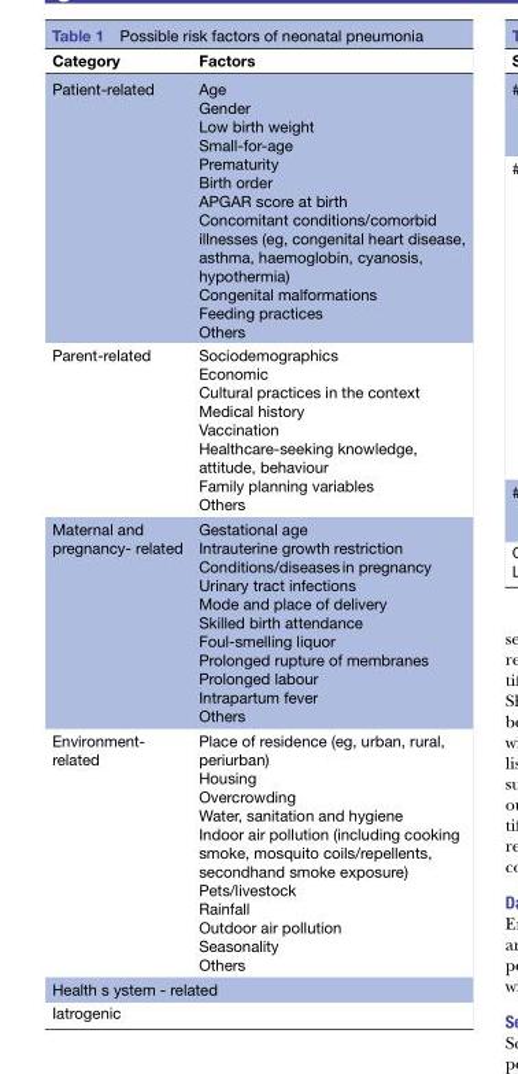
<table><thead><tr><td>Category</td><td>Factors</td></tr></thead><tbody><tr><td>Patient-related</td><td>Age Gender Low birth weight Small-for-age Prematurity Birth order APGAR score at birth Concomitant conditions/comorbid illnesses (eg, congenital heart disease, asthma, haemoglobin, cyanosis, hypothermia) Congenital malformations Feeding practices Others</td></tr><tr><td>Parent-related</td><td>Sociodemographics Economic Cultural practices in the context Medical history Vaccination Healthcare-seeking knowledge, attitude, behaviour Family planning variables Others</td></tr><tr><td>Maternal and pregnancy- related</td><td>Gestational age Intrauterine growth restriction Conditions/diseases in pregnancy Urinary tract infections Mode and place of delivery Skilled birth attendance Foul-smelling liquor Prolonged rupture of membranes Prolonged labour Intrapartum fever Others</td></tr><tr><td>Environment- related</td><td>Place of residence (eg, urban, rural, periurban) Housing Overcrowding Water, sanitation and hygiene Indoor air pollution (including cooking smoke, mosquito coils/repellents, secondhand smoke exposure) Pets/livestock Rainfall Outdoor air pollution Seasonality Others</td></tr><tr><td colspan="2">Health s ystem - related</td></tr><tr><td colspan="2">Iatrogenic</td></tr></tbody></table>